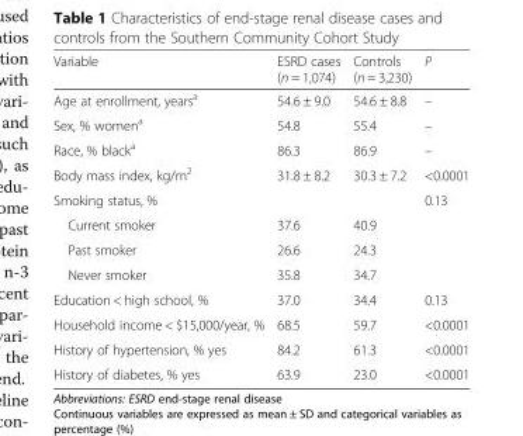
<table><thead><tr><td>Variable</td><td>ESRD cases (n = 1,074)</td><td>Controls (n = 3,230)</td><td>P</td></tr></thead><tbody><tr><td>Age at enrollment, years<sup>a</sup></td><td>54.6 ± 9.0</td><td>54.6 ± 8.8</td><td>–</td></tr><tr><td>Sex, % women<sup>a</sup></td><td>54.8</td><td>55.4</td><td>–</td></tr><tr><td>Race, % black<sup>a</sup></td><td>86.3</td><td>86.9</td><td>–</td></tr><tr><td>Body mass index, kg/m<sup>2</sup></td><td>31.8 ± 8.2</td><td>30.3 ± 7.2</td><td>&lt;0.0001</td></tr><tr><td>Smoking status, %</td><td></td><td></td><td>0.13</td></tr><tr><td>Current smoker</td><td>37.6</td><td>40.9</td><td></td></tr><tr><td>Past smoker</td><td>26.6</td><td>24.3</td><td></td></tr><tr><td>Never smoker</td><td>35.8</td><td>34.7</td><td></td></tr><tr><td>Education &lt; high school, %</td><td>37.0</td><td>34.4</td><td>0.13</td></tr><tr><td>Household income &lt; $15,000/year, %</td><td>68.5</td><td>59.7</td><td>&lt;0.0001</td></tr><tr><td>History of hypertension, % yes</td><td>84.2</td><td>61.3</td><td>&lt;0.0001</td></tr><tr><td>History of diabetes, % yes</td><td>63.9</td><td>23.0</td><td>&lt;0.0001</td></tr></tbody></table>